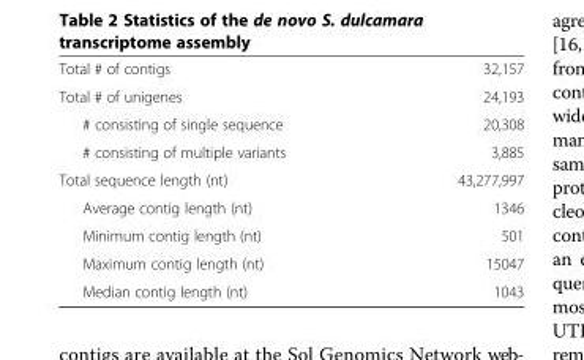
<table><tbody><tr><td>Total # of contigs</td><td>32,157</td></tr><tr><td>Total # of unigenes</td><td>24,193</td></tr><tr><td># consisting of single sequence</td><td>20,308</td></tr><tr><td># consisting of multiple variants</td><td>3,885</td></tr><tr><td>Total sequence length (nt)</td><td>43,277,997</td></tr><tr><td>Average contig length (nt)</td><td>1346</td></tr><tr><td>Minimum contig length (nt)</td><td>501</td></tr><tr><td>Maximum contig length (nt)</td><td>15047</td></tr><tr><td>Median contig length (nt)</td><td>1043</td></tr></tbody></table>